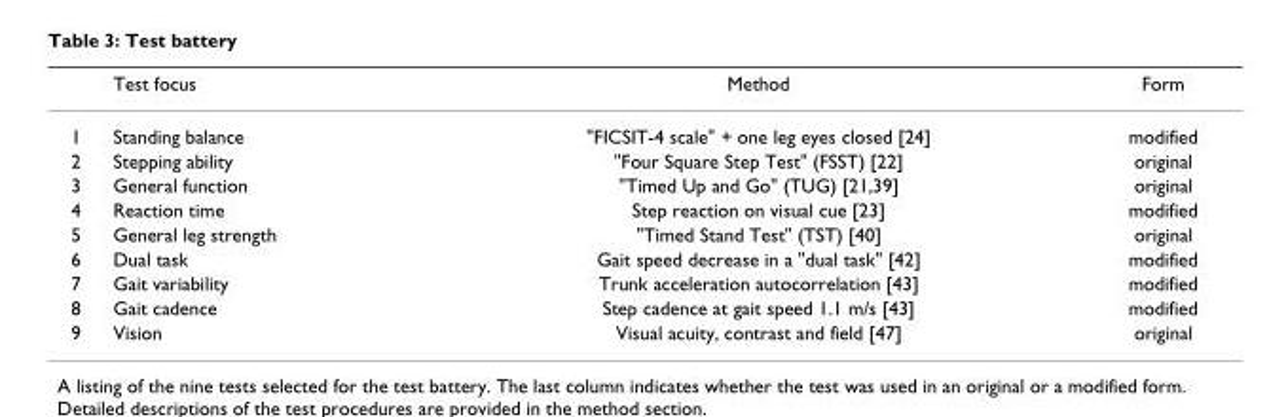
<table><thead><tr><td></td><td>Test focus</td><td>Method</td><td>Form</td></tr></thead><tbody><tr><td>1</td><td>Standing balance</td><td>&quot;FICSIT-4 scale&quot; + one leg eyes closed [24]</td><td>modified</td></tr><tr><td>2</td><td>Stepping ability</td><td>&quot;Four Square Step Test&quot; (FSST) [22]</td><td>original</td></tr><tr><td>3</td><td>General function</td><td>&quot;Timed Up and Go&quot; (TUG) [21,39]</td><td>original</td></tr><tr><td>4</td><td>Reaction time</td><td>Step reaction on visual cue [23]</td><td>modified</td></tr><tr><td>5</td><td>General leg strength</td><td>&quot;Timed Stand Test&quot; (TST) [40]</td><td>original</td></tr><tr><td>6</td><td>Dual task</td><td>Gait speed decrease in a &quot;dual task&quot; [42]</td><td>modified</td></tr><tr><td>7</td><td>Gait variability</td><td>Trunk acceleration autocorrelation [43]</td><td>modified</td></tr><tr><td>8</td><td>Gait cadence</td><td>Step cadence at gait speed 1.1 m/s [43]</td><td>modified</td></tr><tr><td>9</td><td>Vision</td><td>Visual acuity, contrast and field [47]</td><td>original</td></tr></tbody></table>